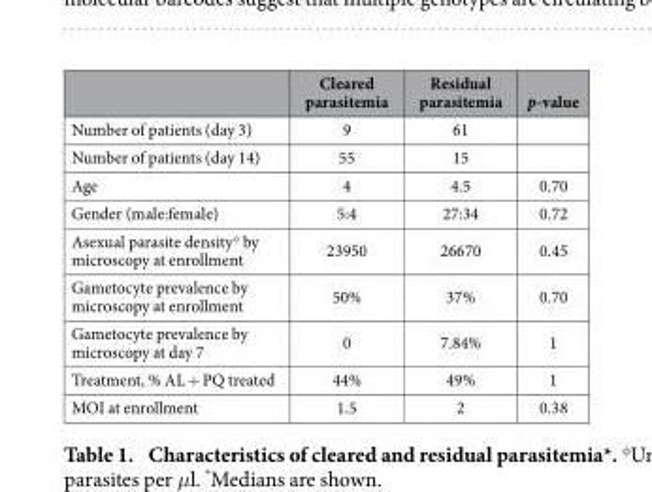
<table><thead><tr><td></td><td>Cleared parasitemia</td><td>Residual parasitemia</td><td>p-value</td></tr></thead><tbody><tr><td>Number of patients (day 3)</td><td>9</td><td>61</td><td></td></tr><tr><td>Number of patients (day 14)</td><td>55</td><td>15</td><td></td></tr><tr><td>Age</td><td>4</td><td>4.5</td><td>0.70</td></tr><tr><td>Gender (male:female)</td><td>5:4</td><td>27:34</td><td>0.72</td></tr><tr><td>Asexual parasite densityφ by microscopy at enrollment</td><td>23950</td><td>26670</td><td>0.45</td></tr><tr><td>Gametocyte prevalence by microscopy at enrollment</td><td>50%</td><td>37%</td><td>0.70</td></tr><tr><td>Gametocyte prevalence by microscopy at day 7</td><td>0</td><td>7.84%</td><td>1</td></tr><tr><td>Treatment, % AL + PQ treated</td><td>44%</td><td>49%</td><td>1</td></tr><tr><td>MOI at enrollment</td><td>1.5</td><td>2</td><td>0.38</td></tr></tbody></table>